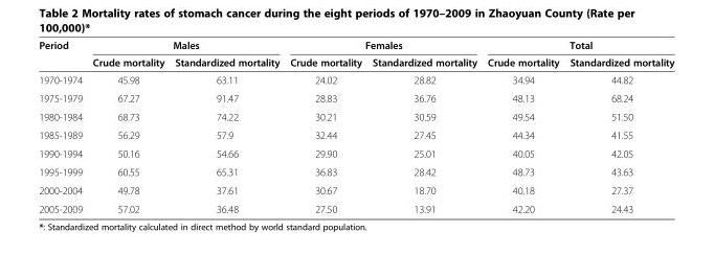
<table><thead><tr><td rowspan="2">Period</td><td colspan="2">Males</td><td colspan="2">Females</td><td colspan="2">Total</td></tr><tr><td>Crude mortality</td><td>Standardized mortality</td><td>Crude mortality</td><td>Standardized mortality</td><td>Crude mortality</td><td>Standardized mortality</td></tr></thead><tbody><tr><td>1970-1974</td><td>45.98</td><td>63.11</td><td>24.02</td><td>28.82</td><td>34.94</td><td>44.82</td></tr><tr><td>1975-1979</td><td>67.27</td><td>91.47</td><td>28.83</td><td>36.76</td><td>48.13</td><td>68.24</td></tr><tr><td>1980-1984</td><td>68.73</td><td>74.22</td><td>30.21</td><td>30.59</td><td>49.54</td><td>51.50</td></tr><tr><td>1985-1989</td><td>56.29</td><td>57.9</td><td>32.44</td><td>27.45</td><td>44.34</td><td>41.55</td></tr><tr><td>1990-1994</td><td>50.16</td><td>54.66</td><td>29.90</td><td>25.01</td><td>40.05</td><td>42.05</td></tr><tr><td>1995-1999</td><td>60.55</td><td>65.31</td><td>36.83</td><td>28.42</td><td>48.73</td><td>43.63</td></tr><tr><td>2000-2004</td><td>49.78</td><td>37.61</td><td>30.67</td><td>18.70</td><td>40.18</td><td>27.37</td></tr><tr><td>2005-2009</td><td>57.02</td><td>36.48</td><td>27.50</td><td>13.91</td><td>42.20</td><td>24.43</td></tr></tbody></table>